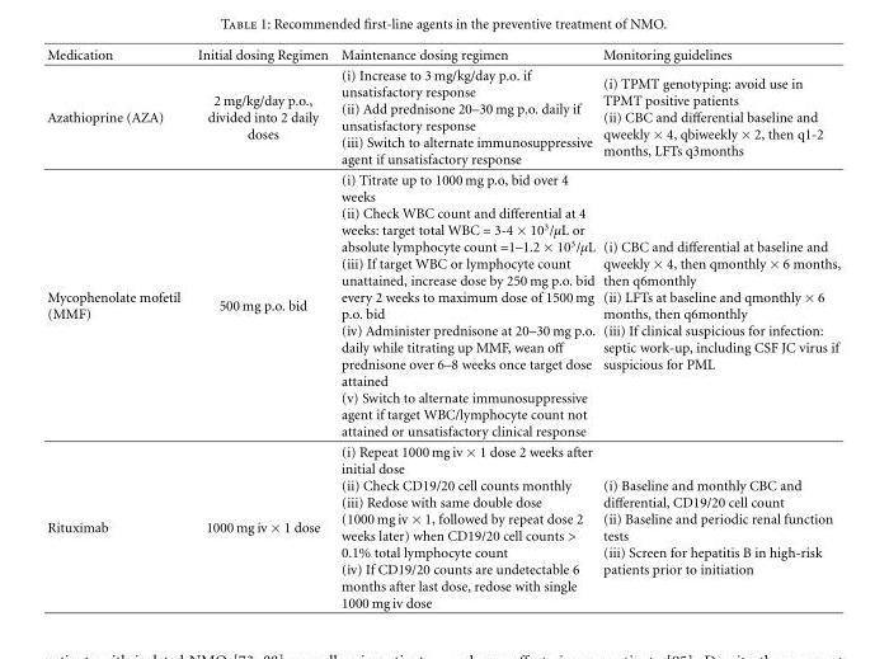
<table><thead><tr><td>Medication</td><td>Initial dosing Regimen</td><td>Maintenance dosing regimen</td><td>Monitoring guidelines</td></tr></thead><tbody><tr><td>Azathioprine (AZA)</td><td>2 mg/kg/day p.o., divided into 2 daily doses</td><td>(i) Increase to 3 mg/kg/day p.o. if unsatisfactory response (ii) Add prednisone 20–30 mg p.o. daily if unsatisfactory response (iii) Switch to alternate immunosuppressive agent if unsatisfactory response</td><td>(i) TPMT genotyping: avoid use in TPMT positive patients (ii) CBC and differential baseline and qweekly × 4, qbiweekly × 2, then q1-2 months, LFTs q3months</td></tr><tr><td>Mycophenolate mofetil (MMF)</td><td>500 mg p.o. bid</td><td>(i) Titrate up to 1000 mg p.o, bid over 4 weeks (ii) Check WBC count and differential at 4 weeks: target total WBC = 3-4 × 10<sup>3</sup>/µL or absolute lymphocyte count =1–1.2 × 10<sup>3</sup>/µL (iii) If target WBC or lymphocyte count unattained, increase dose by 250 mg p.o. bid every 2 weeks to maximum dose of 1500 mg p.o. bid (iv) Administer prednisone at 20–30 mg p.o. daily while titrating up MMF, wean off prednisone over 6–8 weeks once target dose attained (v) Switch to alternate immunosuppressive agent if target WBC/lymphocyte count not attained or unsatisfactory clinical response</td><td>(i) CBC and differential at baseline and qweekly × 4, then qmonthly × 6 months, then q6monthly (ii) LFTs at baseline and qmonthly × 6 months, then q6monthly (iii) If clinical suspicious for infection: septic work-up, including CSF JC virus if suspicious for PML</td></tr><tr><td>Rituximab</td><td>1000 mg iv × 1 dose</td><td>(i) Repeat 1000 mg iv × 1 dose 2 weeks after initial dose (ii) Check CD19/20 cell counts monthly (iii) Redose with same double dose (1000 mg iv × 1, followed by repeat dose 2 weeks later) when CD19/20 cell counts &gt; 0.1% total lymphocyte count (iv) If CD19/20 counts are undetectable 6 months after last dose, redose with single 1000 mg iv dose</td><td>(i) Baseline and monthly CBC and differential, CD19/20 cell count (ii) Baseline and periodic renal function tests (iii) Screen for hepatitis B in high-risk patients prior to initiation</td></tr></tbody></table>